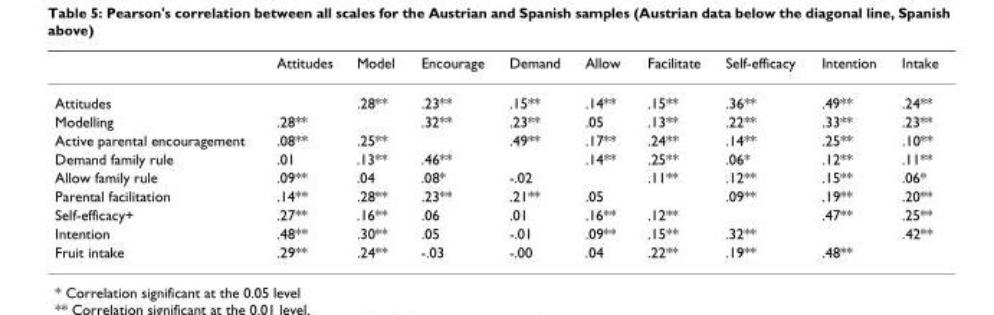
<table><thead><tr><td></td><td>Attitudes</td><td>Model</td><td>Encourage</td><td>Demand</td><td>Allow</td><td>Facilitate</td><td>Self-efficacy</td><td>Intention</td><td>Intake</td></tr></thead><tbody><tr><td>Attitudes</td><td></td><td>.28**</td><td>.23**</td><td>.15**</td><td>.14**</td><td>.15**</td><td>.36**</td><td>.49**</td><td>.24**</td></tr><tr><td>Modelling</td><td>.28**</td><td></td><td>.32**</td><td>.23**</td><td>.05</td><td>.13**</td><td>.22**</td><td>.33**</td><td>.23**</td></tr><tr><td>Active parental encouragement</td><td>.08**</td><td>.25**</td><td></td><td>.49**</td><td>.17**</td><td>.24**</td><td>.14**</td><td>.25**</td><td>.10**</td></tr><tr><td>Demand family rule</td><td>.01</td><td>.13**</td><td>.46**</td><td></td><td>.14**</td><td>.25**</td><td>.06*</td><td>.12**</td><td>.11**</td></tr><tr><td>Allow family rule</td><td>.09**</td><td>.04</td><td>.08*</td><td>-.02</td><td></td><td>.11**</td><td>.12**</td><td>.15**</td><td>.06*</td></tr><tr><td>Parental facilitation</td><td>.14**</td><td>.28**</td><td>.23**</td><td>.21**</td><td>.05</td><td></td><td>.09**</td><td>.19**</td><td>.20**</td></tr><tr><td>Self-efficacy+</td><td>.27**</td><td>.16**</td><td>.06</td><td>.01</td><td>.16**</td><td>.12**</td><td></td><td>.47**</td><td>.25**</td></tr><tr><td>Intention</td><td>.48**</td><td>.30**</td><td>.05</td><td>-.01</td><td>.09**</td><td>.15**</td><td>.32**</td><td></td><td>.42**</td></tr><tr><td>Fruit intake</td><td>.29**</td><td>.24**</td><td>-.03</td><td>-.00</td><td>.04</td><td>.22**</td><td>.19**</td><td>.48**</td><td></td></tr></tbody></table>